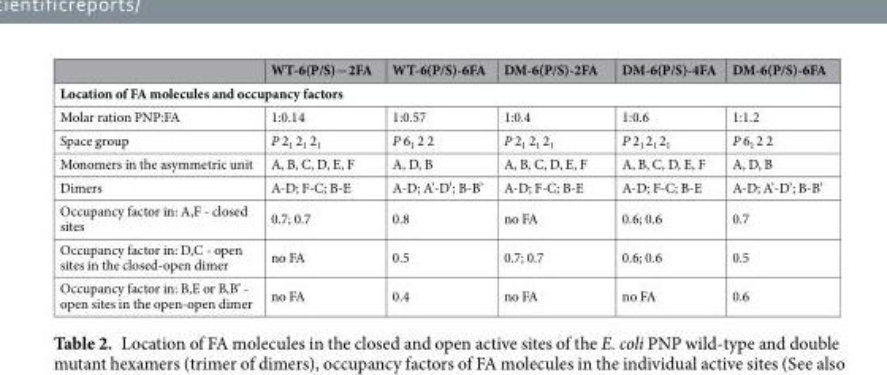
<table><thead><tr><td></td><td>WT-6(P/S)−2FA</td><td>WT-6(P/S)-6FA</td><td>DM-6(P/S)-2FA</td><td>DM-6(P/S)-4FA</td><td>DM-6(P/S)-6FA</td></tr></thead><tbody><tr><td colspan="6">Location of FA molecules and occupancy factors</td></tr><tr><td>Molar ration PNP:FA</td><td>1:0.14</td><td>1:0.57</td><td>1:0.4</td><td>1:0.6</td><td>1:1.2</td></tr><tr><td>Space group</td><td>P 2<sub>1</sub> 2<sub>1</sub> 2<sub>1</sub></td><td>P 6<sub>1</sub> 2 2</td><td>P 2<sub>1</sub> 2<sub>1</sub> 2<sub>1</sub></td><td>P 2<sub>1</sub> 2<sub>1</sub> 2<sub>1</sub></td><td>P 6<sub>1</sub> 2 2</td></tr><tr><td>Monomers in the asymmetric unit</td><td>A, B, C, D, E, F</td><td>A, D, B</td><td>A, B, C, D, E, F</td><td>A, B, C, D, E, F</td><td>A, D, B</td></tr><tr><td>Dimers</td><td>A-D; F-C; B-E</td><td>A-D; A’-D’; B-B’</td><td>A-D; F-C; B-E</td><td>A-D; F-C; B-E</td><td>A-D; A’-D’; B-B’</td></tr><tr><td>Occupancy factor in: A,F - closed sites</td><td>0.7; 0.7</td><td>0.8</td><td>no FA</td><td>0.6; 0.6</td><td>0.7</td></tr><tr><td>Occupancy factor in: D,C - open sites in the closed-open dimer</td><td>no FA</td><td>0.5</td><td>0.7; 0.7</td><td>0.6; 0.6</td><td>0.5</td></tr><tr><td>Occupancy factor in: B,E or B,B’ - open sites in the open-open dimer</td><td>no FA</td><td>0.4</td><td>no FA</td><td>no FA</td><td>0.6</td></tr></tbody></table>